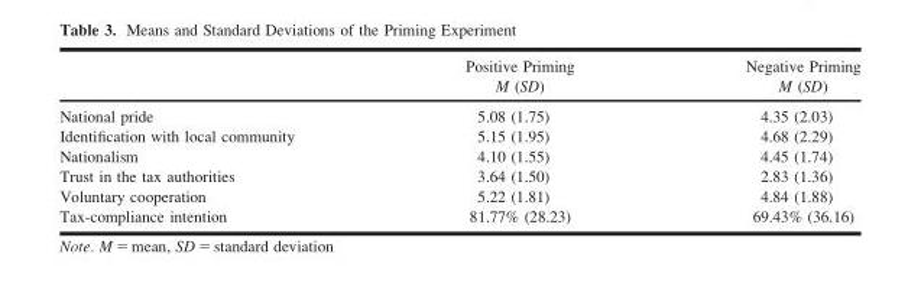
<table><thead><tr><td rowspan="2"></td><td rowspan="2">Positive Priming M (SD)</td><td rowspan="2">Negative Priming M (SD)</td></tr><tr></tr></thead><tbody><tr><td>National pride</td><td>5.08 (1.75)</td><td>4.35 (2.03)</td></tr><tr><td>Identification with local community</td><td>5.15 (1.95)</td><td>4.68 (2.29)</td></tr><tr><td>Nationalism</td><td>4.10 (1.55)</td><td>4.45 (1.74)</td></tr><tr><td>Trust in the tax authorities</td><td>3.64 (1.50)</td><td>2.83 (1.36)</td></tr><tr><td>Voluntary cooperation</td><td>5.22 (1.81)</td><td>4.84 (1.88)</td></tr><tr><td>Tax-compliance intention</td><td>81.77% (28.23)</td><td>69.43% (36.16)</td></tr></tbody></table>